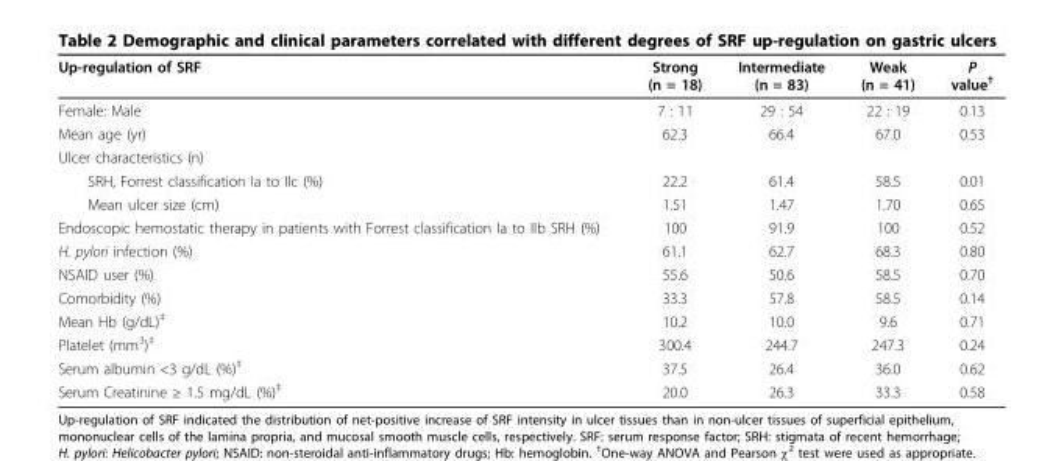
<table><thead><tr><td>Up-regulation of SRF</td><td>Strong (n = 18)</td><td>Intermediate (n = 83)</td><td>Weak (n = 41)</td><td>P value<sup>†</sup></td></tr></thead><tbody><tr><td>Female: Male</td><td>7 : 11</td><td>29 : 54</td><td>22 : 19</td><td>0.13</td></tr><tr><td>Mean age (yr)</td><td>62.3</td><td>66.4</td><td>67.0</td><td>0.53</td></tr><tr><td colspan="5">Ulcer characteristics (n)</td></tr><tr><td>SRH, Forrest classification Ia to IIc (%)</td><td>22.2</td><td>61.4</td><td>58.5</td><td>0.01</td></tr><tr><td>Mean ulcer size (cm)</td><td>1.51</td><td>1.47</td><td>1.70</td><td>0.65</td></tr><tr><td>Endoscopic hemostatic therapy in patients with Forrest classification Ia to IIb SRH (%)</td><td>100</td><td>91.9</td><td>100</td><td>0.52</td></tr><tr><td>H. pylori infection (%)</td><td>61.1</td><td>62.7</td><td>68.3</td><td>0.80</td></tr><tr><td>NSAID user (%)</td><td>55.6</td><td>50.6</td><td>58.5</td><td>0.70</td></tr><tr><td>Comorbidity (%)</td><td>33.3</td><td>57.8</td><td>58.5</td><td>0.14</td></tr><tr><td>Mean Hb (g/dL)<sup>‡</sup></td><td>10.2</td><td>10.0</td><td>9.6</td><td>0.71</td></tr><tr><td>Platelet (mm<sup>3</sup>)<sup>‡</sup></td><td>300.4</td><td>244.7</td><td>247.3</td><td>0.24</td></tr><tr><td>Serum albumin &lt;3 g/dL (%)<sup>‡</sup></td><td>37.5</td><td>26.4</td><td>36.0</td><td>0.62</td></tr><tr><td>Serum Creatinine ≥ 1.5 mg/dL (%)<sup>‡</sup></td><td>20.0</td><td>26.3</td><td>33.3</td><td>0.58</td></tr></tbody></table>